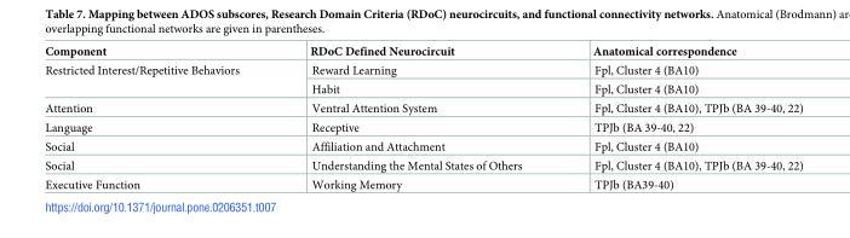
<table><thead><tr><td>Component</td><td>RDoC Defined Neurocircuit</td><td>Anatomical correspondence</td></tr></thead><tbody><tr><td rowspan="2">Restricted Interest/Repetitive Behaviors</td><td>Reward Learning</td><td>Fpl, Cluster 4 (BA10)</td></tr><tr><td>Habit</td><td>Fpl, Cluster 4 (BA10)</td></tr><tr><td>Attention</td><td>Ventral Attention System</td><td>Fpl, Cluster 4 (BA10), TPJb (BA 39-40, 22)</td></tr><tr><td>Language</td><td>Receptive</td><td>TPJb (BA 39-40, 22)</td></tr><tr><td>Social</td><td>Affiliation and Attachment</td><td>Fpl, Cluster 4 (BA10)</td></tr><tr><td>Social</td><td>Understanding the Mental States of Others</td><td>Fpl, Cluster 4 (BA10), TPJb (BA 39-40, 22)</td></tr><tr><td>Executive Function</td><td>Working Memory</td><td>TPJb (BA39-40)</td></tr></tbody></table>